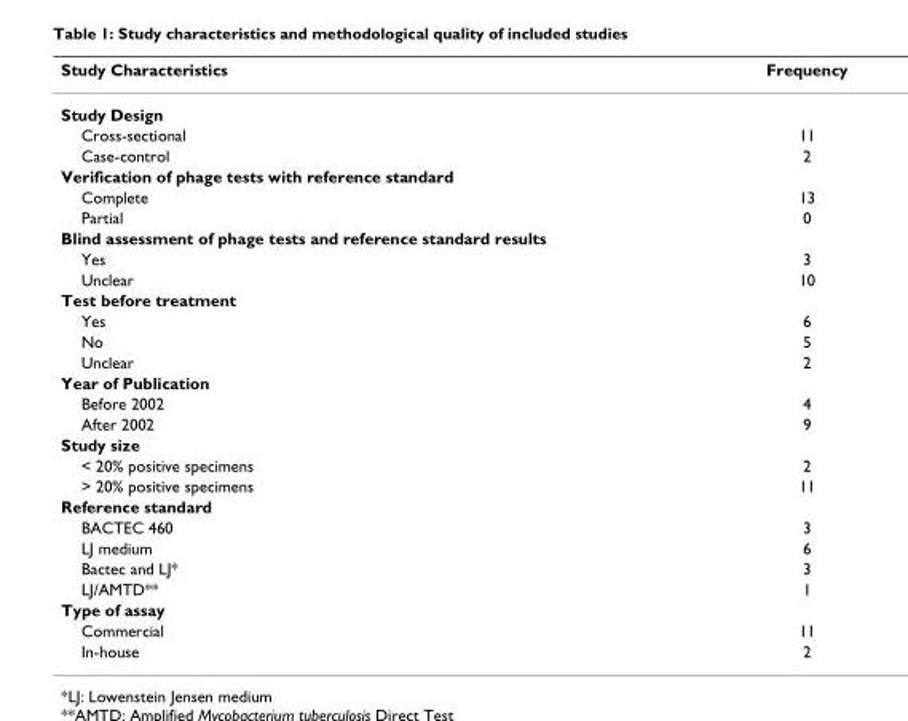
<table><thead><tr><td>Study Characteristics</td><td>Frequency</td></tr></thead><tbody><tr><td colspan="2">Study Design</td></tr><tr><td>Cross-sectional</td><td>11</td></tr><tr><td>Case-control</td><td>2</td></tr><tr><td colspan="2">Verification of phage tests with reference standard</td></tr><tr><td>Complete</td><td>13</td></tr><tr><td>Partial</td><td>0</td></tr><tr><td colspan="2">Blind assessment of phage tests and reference standard results</td></tr><tr><td>Yes</td><td>3</td></tr><tr><td>Unclear</td><td>10</td></tr><tr><td colspan="2">Test before treatment</td></tr><tr><td>Yes</td><td>6</td></tr><tr><td>No</td><td>5</td></tr><tr><td>Unclear</td><td>2</td></tr><tr><td colspan="2">Year of Publication</td></tr><tr><td>Before 2002</td><td>4</td></tr><tr><td>After 2002</td><td>9</td></tr><tr><td colspan="2">Study size</td></tr><tr><td>&lt; 20% positive specimens</td><td>2</td></tr><tr><td>&gt; 20% positive specimens</td><td>11</td></tr><tr><td colspan="2">Reference standard</td></tr><tr><td>BACTEC 460</td><td>3</td></tr><tr><td>LJ medium</td><td>6</td></tr><tr><td>Bactec and LJ*</td><td>3</td></tr><tr><td>LJ/AMTD**</td><td>1</td></tr><tr><td colspan="2">Type of assay</td></tr><tr><td>Commercial</td><td>11</td></tr><tr><td>In-house</td><td>2</td></tr></tbody></table>